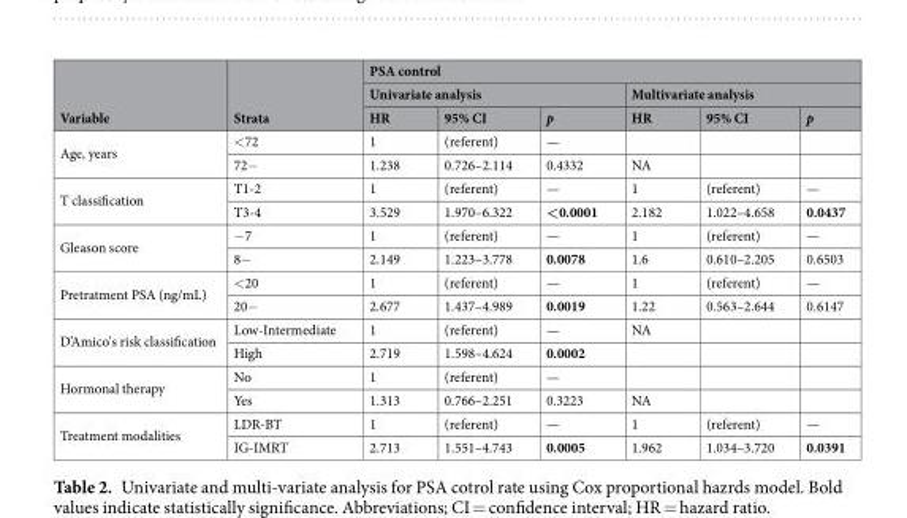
<table><thead><tr><td rowspan="3">Variable</td><td rowspan="3">Strata</td><td colspan="6">PSA control</td></tr><tr><td colspan="3">Univariate analysis</td><td colspan="3">Multivariate analysis</td></tr><tr><td>HR</td><td>95% CI</td><td>p</td><td>HR</td><td>95% CI</td><td>p</td></tr></thead><tbody><tr><td rowspan="2">Age, years</td><td>&lt;72</td><td>1</td><td>(referent)</td><td>—</td><td></td><td></td><td></td></tr><tr><td>72−</td><td>1.238</td><td>0.726–2.114</td><td>0.4332</td><td>NA</td><td></td><td></td></tr><tr><td rowspan="2">T classification</td><td>T1-2</td><td>1</td><td>(referent)</td><td>—</td><td>1</td><td>(referent)</td><td>—</td></tr><tr><td>T3-4</td><td>3.529</td><td>1.970–6.322</td><td>&lt;0.0001</td><td>2.182</td><td>1.022–4.658</td><td>0.0437</td></tr><tr><td rowspan="2">Gleason score</td><td>−7</td><td>1</td><td>(referent)</td><td>—</td><td>1</td><td>(referent)</td><td>—</td></tr><tr><td>8−</td><td>2.149</td><td>1.223–3.778</td><td>0.0078</td><td>1.6</td><td>0.610–2.205</td><td>0.6503</td></tr><tr><td rowspan="2">Pretratment PSA (ng/mL)</td><td>&lt;20</td><td>1</td><td>(referent)</td><td>—</td><td>1</td><td>(referent)</td><td>—</td></tr><tr><td>20−</td><td>2.677</td><td>1.437–4.989</td><td>0.0019</td><td>1.22</td><td>0.563–2.644</td><td>0.6147</td></tr><tr><td rowspan="2">D’Amico&#x27;s risk classification</td><td>Low-Intermediate</td><td>1</td><td>(referent)</td><td>—</td><td>NA</td><td></td><td></td></tr><tr><td>High</td><td>2.719</td><td>1.598–4.624</td><td>0.0002</td><td></td><td></td><td></td></tr><tr><td rowspan="2">Hormonal therapy</td><td>No</td><td>1</td><td>(referent)</td><td>—</td><td></td><td></td><td></td></tr><tr><td>Yes</td><td>1.313</td><td>0.766–2.251</td><td>0.3223</td><td>NA</td><td></td><td></td></tr><tr><td rowspan="2">Treatment modalities</td><td>LDR-BT</td><td>1</td><td>(referent)</td><td>—</td><td>1</td><td>(referent)</td><td>—</td></tr><tr><td>IG-IMRT</td><td>2.713</td><td>1.551–4.743</td><td>0.0005</td><td>1.962</td><td>1.034–3.720</td><td>0.0391</td></tr></tbody></table>